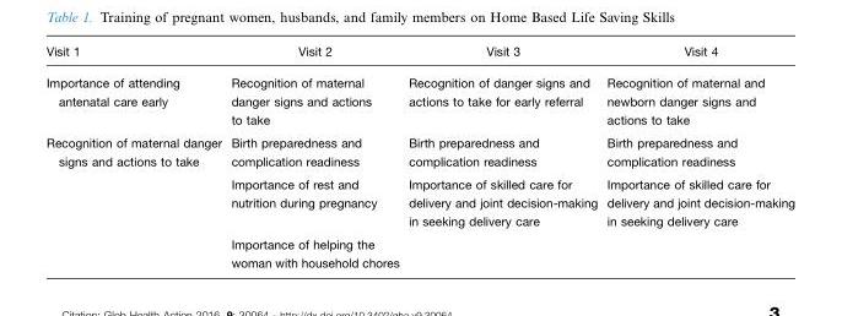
<table><thead><tr><td>Visit 1</td><td>Visit 2</td><td>Visit 3</td><td>Visit 4</td></tr></thead><tbody><tr><td>Importance of attending antenatal care early</td><td>Recognition of maternal danger signs and actions to take</td><td>Recognition of danger signs and actions to take for early referral</td><td>Recognition of maternal and newborn danger signs and actions to take</td></tr><tr><td rowspan="3">Recognition of maternal danger signs and actions to take</td><td>Birth preparedness and complication readiness</td><td>Birth preparedness and complication readiness</td><td>Birth preparedness and complication readiness</td></tr><tr><td>Importance of rest and nutrition during pregnancy</td><td>Importance of skilled care for delivery and joint decision-making in seeking delivery care</td><td>Importance of skilled care for delivery and joint decision-making in seeking delivery care</td></tr><tr><td>Importance of helping the woman with household chores</td><td></td><td></td></tr></tbody></table>